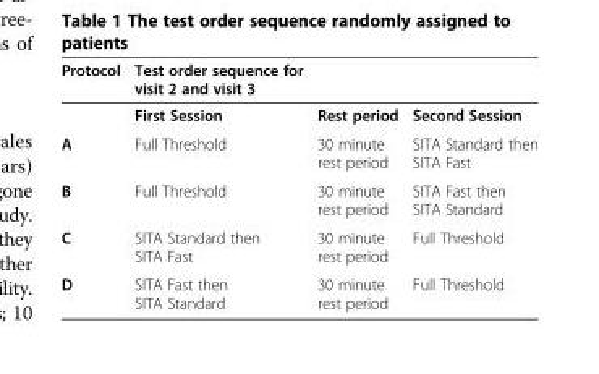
<table><thead><tr><td>Protocol</td><td>Test order sequence for visit 2 and visit 3</td><td></td><td></td></tr></thead><tbody><tr><td></td><td>First Session</td><td>Rest period</td><td>Second Session</td></tr><tr><td>A</td><td>Full Threshold</td><td>30 minute rest period</td><td>SITA Standard then SITA Fast</td></tr><tr><td>B</td><td>Full Threshold</td><td>30 minute rest period</td><td>SITA Fast then SITA Standard</td></tr><tr><td>C</td><td>SITA Standard then SITA Fast</td><td>30 minute rest period</td><td>Full Threshold</td></tr><tr><td>D</td><td>SITA Fast then SITA Standard</td><td>30 minute rest period</td><td>Full Threshold</td></tr></tbody></table>